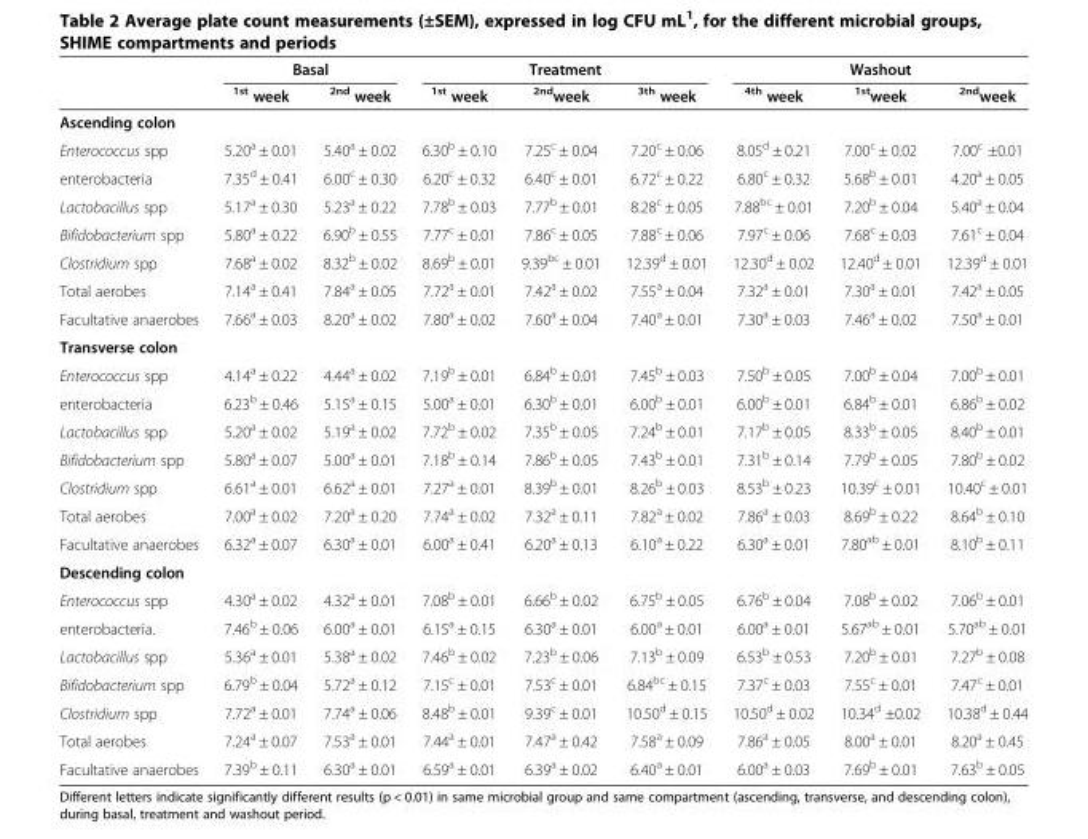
<table><thead><tr><td rowspan="2"></td><td colspan="2">Basal</td><td colspan="3">Treatment</td><td colspan="3">Washout</td></tr><tr><td><sup>1st</sup> week</td><td><sup>2nd</sup> week</td><td><sup>1st</sup> week</td><td><sup>2nd</sup>week</td><td><sup>3th</sup> week</td><td><sup>4th</sup> week</td><td><sup>1st</sup>week</td><td><sup>2nd</sup>week</td></tr></thead><tbody><tr><td colspan="9">Ascending colon</td></tr><tr><td>Enterococcus spp</td><td>5.20<sup>a</sup> ± 0.01</td><td>5.40<sup>a</sup> ± 0.02</td><td>6.30<sup>b</sup> ± 0.10</td><td>7.25<sup>c</sup> ± 0.04</td><td>7.20<sup>c</sup> ± 0.06</td><td>8.05<sup>d</sup> ± 0.21</td><td>7.00<sup>c</sup> ± 0.02</td><td>7.00<sup>c</sup> ±0.01</td></tr><tr><td>enterobacteria</td><td>7.35<sup>d</sup> ± 0.41</td><td>6.00<sup>c</sup> ± 0.30</td><td>6.20<sup>c</sup> ± 0.32</td><td>6.40<sup>c</sup> ± 0.01</td><td>6.72<sup>c</sup> ± 0.22</td><td>6.80<sup>c</sup> ± 0.32</td><td>5.68<sup>b</sup> ± 0.01</td><td>4.20<sup>a</sup> ± 0.05</td></tr><tr><td>Lactobacillus spp</td><td>5.17<sup>a</sup> ± 0.30</td><td>5.23<sup>a</sup> ± 0.22</td><td>7.78<sup>b</sup> ± 0.03</td><td>7.77<sup>b</sup> ± 0.01</td><td>8.28<sup>c</sup> ± 0.05</td><td>7.88<sup>bc</sup> ± 0.01</td><td>7.20<sup>b</sup> ± 0.04</td><td>5.40<sup>a</sup> ± 0.04</td></tr><tr><td>Bifidobacterium spp</td><td>5.80<sup>a</sup> ± 0.22</td><td>6.90<sup>b</sup> ± 0.55</td><td>7.77<sup>c</sup> ± 0.01</td><td>7.86<sup>c</sup> ± 0.05</td><td>7.88<sup>c</sup> ± 0.06</td><td>7.97<sup>c</sup> ± 0.06</td><td>7.68<sup>c</sup> ± 0.03</td><td>7.61<sup>c</sup> ± 0.04</td></tr><tr><td>Clostridium spp</td><td>7.68<sup>a</sup> ± 0.02</td><td>8.32<sup>b</sup> ± 0.02</td><td>8.69<sup>b</sup> ± 0.01</td><td>9.39<sup>bc</sup> ± 0.01</td><td>12.39<sup>d</sup> ± 0.01</td><td>12.30<sup>d</sup> ± 0.02</td><td>12.40<sup>d</sup> ± 0.01</td><td>12.39<sup>d</sup> ± 0.01</td></tr><tr><td>Total aerobes</td><td>7.14<sup>a</sup> ± 0.41</td><td>7.84<sup>a</sup> ± 0.05</td><td>7.72<sup>a</sup> ± 0.01</td><td>7.42<sup>a</sup> ± 0.02</td><td>7.55<sup>a</sup> ± 0.04</td><td>7.32<sup>a</sup> ± 0.01</td><td>7.30<sup>a</sup> ± 0.01</td><td>7.42<sup>a</sup> ± 0.05</td></tr><tr><td>Facultative anaerobes</td><td>7.66<sup>a</sup> ± 0.03</td><td>8.20<sup>a</sup> ± 0.02</td><td>7.80<sup>a</sup> ± 0.02</td><td>7.60<sup>a</sup> ± 0.04</td><td>7.40<sup>a</sup> ± 0.01</td><td>7.30<sup>a</sup> ± 0.03</td><td>7.46<sup>a</sup> ± 0.02</td><td>7.50<sup>a</sup> ± 0.01</td></tr><tr><td colspan="9">Transverse colon</td></tr><tr><td>Enterococcus spp</td><td>4.14<sup>a</sup> ± 0.22</td><td>4.44<sup>a</sup> ± 0.02</td><td>7.19<sup>b</sup> ± 0.01</td><td>6.84<sup>b</sup> ± 0.01</td><td>7.45<sup>b</sup> ± 0.03</td><td>7.50<sup>b</sup> ± 0.05</td><td>7.00<sup>b</sup> ± 0.04</td><td>7.00<sup>b</sup> ± 0.01</td></tr><tr><td>enterobacteria</td><td>6.23<sup>b</sup> ± 0.46</td><td>5.15<sup>a</sup> ± 0.15</td><td>5.00<sup>a</sup> ± 0.01</td><td>6.30<sup>b</sup> ± 0.01</td><td>6.00<sup>b</sup> ± 0.01</td><td>6.00<sup>b</sup> ± 0.01</td><td>6.84<sup>b</sup> ± 0.01</td><td>6.86<sup>b</sup> ± 0.02</td></tr><tr><td>Lactobacillus spp</td><td>5.20<sup>a</sup> ± 0.02</td><td>5.19<sup>a</sup> ± 0.02</td><td>7.72<sup>b</sup> ± 0.02</td><td>7.35<sup>b</sup> ± 0.05</td><td>7.24<sup>b</sup> ± 0.01</td><td>7.17<sup>b</sup> ± 0.05</td><td>8.33<sup>b</sup> ± 0.05</td><td>8.40<sup>b</sup> ± 0.01</td></tr><tr><td>Bifidobacterium spp</td><td>5.80<sup>a</sup> ± 0.07</td><td>5.00<sup>a</sup> ± 0.01</td><td>7.18<sup>b</sup> ± 0.14</td><td>7.86<sup>b</sup> ± 0.05</td><td>7.43<sup>b</sup> ± 0.01</td><td>7.31<sup>b</sup> ± 0.14</td><td>7.79<sup>b</sup> ± 0.05</td><td>7.80<sup>b</sup> ± 0.02</td></tr><tr><td>Clostridium spp</td><td>6.61<sup>a</sup> ± 0.01</td><td>6.62<sup>a</sup> ± 0.01</td><td>7.27<sup>a</sup> ± 0.01</td><td>8.39<sup>b</sup> ± 0.01</td><td>8.26<sup>b</sup> ± 0.03</td><td>8.53<sup>b</sup> ± 0.23</td><td>10.39<sup>c</sup> ± 0.01</td><td>10.40<sup>c</sup> ± 0.01</td></tr><tr><td>Total aerobes</td><td>7.00<sup>a</sup> ± 0.02</td><td>7.20<sup>a</sup> ± 0.20</td><td>7.74<sup>a</sup> ± 0.02</td><td>7.32<sup>a</sup> ± 0.11</td><td>7.82<sup>a</sup> ± 0.02</td><td>7.86<sup>a</sup> ± 0.03</td><td>8.69<sup>b</sup> ± 0.22</td><td>8.64<sup>b</sup> ± 0.10</td></tr><tr><td>Facultative anaerobes</td><td>6.32<sup>a</sup> ± 0.07</td><td>6.30<sup>a</sup> ± 0.01</td><td>6.00<sup>a</sup> ± 0.41</td><td>6.20<sup>a</sup> ± 0.13</td><td>6.10<sup>a</sup> ± 0.22</td><td>6.30<sup>a</sup> ± 0.01</td><td>7.80<sup>ab</sup> ± 0.01</td><td>8.10<sup>b</sup> ± 0.11</td></tr><tr><td colspan="9">Descending colon</td></tr><tr><td>Enterococcus spp</td><td>4.30<sup>a</sup> ± 0.02</td><td>4.32<sup>a</sup> ± 0.01</td><td>7.08<sup>b</sup> ± 0.01</td><td>6.66<sup>b</sup> ± 0.02</td><td>6.75<sup>b</sup> ± 0.05</td><td>6.76<sup>b</sup> ± 0.04</td><td>7.08<sup>b</sup> ± 0.02</td><td>7.06<sup>b</sup> ± 0.01</td></tr><tr><td>enterobacteria.</td><td>7.46<sup>b</sup> ± 0.06</td><td>6.00<sup>a</sup> ± 0.01</td><td>6.15<sup>a</sup> ± 0.15</td><td>6.30<sup>a</sup> ± 0.01</td><td>6.00<sup>a</sup> ± 0.01</td><td>6.00<sup>a</sup> ± 0.01</td><td>5.67<sup>ab</sup> ± 0.01</td><td>5.70<sup>ab</sup> ± 0.01</td></tr><tr><td>Lactobacillus spp</td><td>5.36<sup>a</sup> ± 0.01</td><td>5.38<sup>a</sup> ± 0.02</td><td>7.46<sup>b</sup> ± 0.02</td><td>7.23<sup>b</sup> ± 0.06</td><td>7.13<sup>b</sup> ± 0.09</td><td>6.53<sup>b</sup> ± 0.53</td><td>7.20<sup>b</sup> ± 0.01</td><td>7.27<sup>b</sup> ± 0.08</td></tr><tr><td>Bifidobacterium spp</td><td>6.79<sup>b</sup> ± 0.04</td><td>5.72<sup>a</sup> ± 0.12</td><td>7.15<sup>c</sup> ± 0.01</td><td>7.53<sup>c</sup> ± 0.01</td><td>6.84<sup>bc</sup> ± 0.15</td><td>7.37<sup>c</sup> ± 0.03</td><td>7.55<sup>c</sup> ± 0.01</td><td>7.47<sup>c</sup> ± 0.01</td></tr><tr><td>Clostridium spp</td><td>7.72<sup>a</sup> ± 0.01</td><td>7.74<sup>a</sup> ± 0.06</td><td>8.48<sup>b</sup> ± 0.01</td><td>9.39<sup>c</sup> ± 0.01</td><td>10.50<sup>d</sup> ± 0.15</td><td>10.50<sup>d</sup> ± 0.02</td><td>10.34<sup>d</sup> ±0.02</td><td>10.38<sup>d</sup> ± 0.44</td></tr><tr><td>Total aerobes</td><td>7.24<sup>a</sup> ± 0.07</td><td>7.53<sup>a</sup> ± 0.01</td><td>7.44<sup>a</sup> ± 0.01</td><td>7.47<sup>a</sup> ± 0.42</td><td>7.58<sup>a</sup> ± 0.09</td><td>7.86<sup>a</sup> ± 0.05</td><td>8.00<sup>a</sup> ± 0.01</td><td>8.20<sup>a</sup> ± 0.45</td></tr><tr><td>Facultative anaerobes</td><td>7.39<sup>b</sup> ± 0.11</td><td>6.30<sup>a</sup> ± 0.01</td><td>6.59<sup>a</sup> ± 0.01</td><td>6.39<sup>a</sup> ± 0.02</td><td>6.40<sup>a</sup> ± 0.01</td><td>6.00<sup>a</sup> ± 0.03</td><td>7.69<sup>b</sup> ± 0.01</td><td>7.63<sup>b</sup> ± 0.05</td></tr></tbody></table>